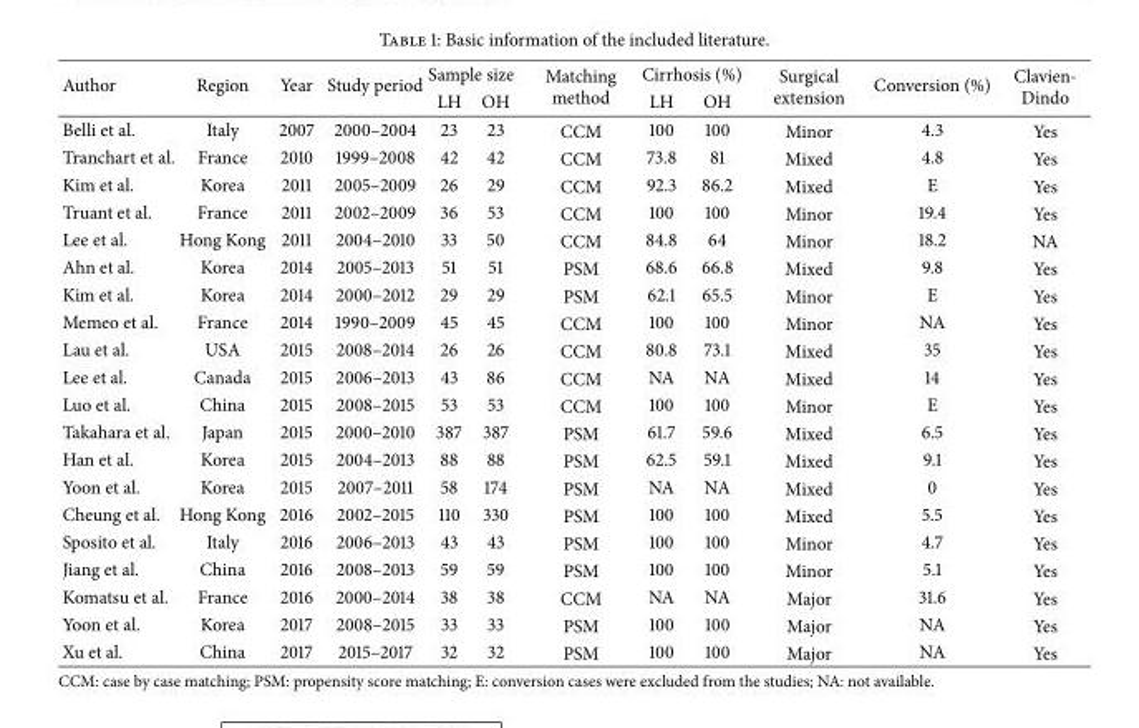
<table><thead><tr><td rowspan="2">Author</td><td rowspan="2">Region</td><td rowspan="2">Year</td><td rowspan="2">Study period</td><td colspan="2">Sample size</td><td rowspan="2">Matching method</td><td colspan="2">Cirrhosis (%)</td><td rowspan="2">Surgical extension</td><td rowspan="2">Conversion (%)</td><td rowspan="2">Clavien- Dindo</td></tr><tr><td>LH</td><td>OH</td><td>LH</td><td>OH</td></tr></thead><tbody><tr><td>Belli et al.</td><td>Italy</td><td>2007</td><td>2000–2004</td><td>23</td><td>23</td><td>CCM</td><td>100</td><td>100</td><td>Minor</td><td>4.3</td><td>Yes</td></tr><tr><td>Tranchart et al.</td><td>France</td><td>2010</td><td>1999–2008</td><td>42</td><td>42</td><td>CCM</td><td>73.8</td><td>81</td><td>Mixed</td><td>4.8</td><td>Yes</td></tr><tr><td>Kim et al.</td><td>Korea</td><td>2011</td><td>2005–2009</td><td>26</td><td>29</td><td>CCM</td><td>92.3</td><td>86.2</td><td>Mixed</td><td>E</td><td>Yes</td></tr><tr><td>Truant et al.</td><td>France</td><td>2011</td><td>2002–2009</td><td>36</td><td>53</td><td>CCM</td><td>100</td><td>100</td><td>Minor</td><td>19.4</td><td>Yes</td></tr><tr><td>Lee et al.</td><td>Hong Kong</td><td>2011</td><td>2004–2010</td><td>33</td><td>50</td><td>CCM</td><td>84.8</td><td>64</td><td>Minor</td><td>18.2</td><td>NA</td></tr><tr><td>Ahn et al.</td><td>Korea</td><td>2014</td><td>2005–2013</td><td>51</td><td>51</td><td>PSM</td><td>68.6</td><td>66.8</td><td>Mixed</td><td>9.8</td><td>Yes</td></tr><tr><td>Kim et al.</td><td>Korea</td><td>2014</td><td>2000–2012</td><td>29</td><td>29</td><td>PSM</td><td>62.1</td><td>65.5</td><td>Minor</td><td>E</td><td>Yes</td></tr><tr><td>Memeo et al.</td><td>France</td><td>2014</td><td>1990–2009</td><td>45</td><td>45</td><td>CCM</td><td>100</td><td>100</td><td>Minor</td><td>NA</td><td>Yes</td></tr><tr><td>Lau et al.</td><td>USA</td><td>2015</td><td>2008–2014</td><td>26</td><td>26</td><td>CCM</td><td>80.8</td><td>73.1</td><td>Mixed</td><td>35</td><td>Yes</td></tr><tr><td>Lee et al.</td><td>Canada</td><td>2015</td><td>2006–2013</td><td>43</td><td>86</td><td>CCM</td><td>NA</td><td>NA</td><td>Mixed</td><td>14</td><td>Yes</td></tr><tr><td>Luo et al.</td><td>China</td><td>2015</td><td>2008–2015</td><td>53</td><td>53</td><td>CCM</td><td>100</td><td>100</td><td>Minor</td><td>E</td><td>Yes</td></tr><tr><td>Takahara et al.</td><td>Japan</td><td>2015</td><td>2000–2010</td><td>387</td><td>387</td><td>PSM</td><td>61.7</td><td>59.6</td><td>Mixed</td><td>6.5</td><td>Yes</td></tr><tr><td>Han et al.</td><td>Korea</td><td>2015</td><td>2004–2013</td><td>88</td><td>88</td><td>PSM</td><td>62.5</td><td>59.1</td><td>Mixed</td><td>9.1</td><td>Yes</td></tr><tr><td>Yoon et al.</td><td>Korea</td><td>2015</td><td>2007–2011</td><td>58</td><td>174</td><td>PSM</td><td>NA</td><td>NA</td><td>Mixed</td><td>0</td><td>Yes</td></tr><tr><td>Cheung et al.</td><td>Hong Kong</td><td>2016</td><td>2002–2015</td><td>110</td><td>330</td><td>PSM</td><td>100</td><td>100</td><td>Mixed</td><td>5.5</td><td>Yes</td></tr><tr><td>Sposito et al.</td><td>Italy</td><td>2016</td><td>2006–2013</td><td>43</td><td>43</td><td>PSM</td><td>100</td><td>100</td><td>Minor</td><td>4.7</td><td>Yes</td></tr><tr><td>Jiang et al.</td><td>China</td><td>2016</td><td>2008–2013</td><td>59</td><td>59</td><td>PSM</td><td>100</td><td>100</td><td>Minor</td><td>5.1</td><td>Yes</td></tr><tr><td>Komatsu et al.</td><td>France</td><td>2016</td><td>2000–2014</td><td>38</td><td>38</td><td>CCM</td><td>NA</td><td>NA</td><td>Major</td><td>31.6</td><td>Yes</td></tr><tr><td>Yoon et al.</td><td>Korea</td><td>2017</td><td>2008–2015</td><td>33</td><td>33</td><td>PSM</td><td>100</td><td>100</td><td>Major</td><td>NA</td><td>Yes</td></tr><tr><td>Xu et al.</td><td>China</td><td>2017</td><td>2015–2017</td><td>32</td><td>32</td><td>PSM</td><td>100</td><td>100</td><td>Major</td><td>NA</td><td>Yes</td></tr></tbody></table>